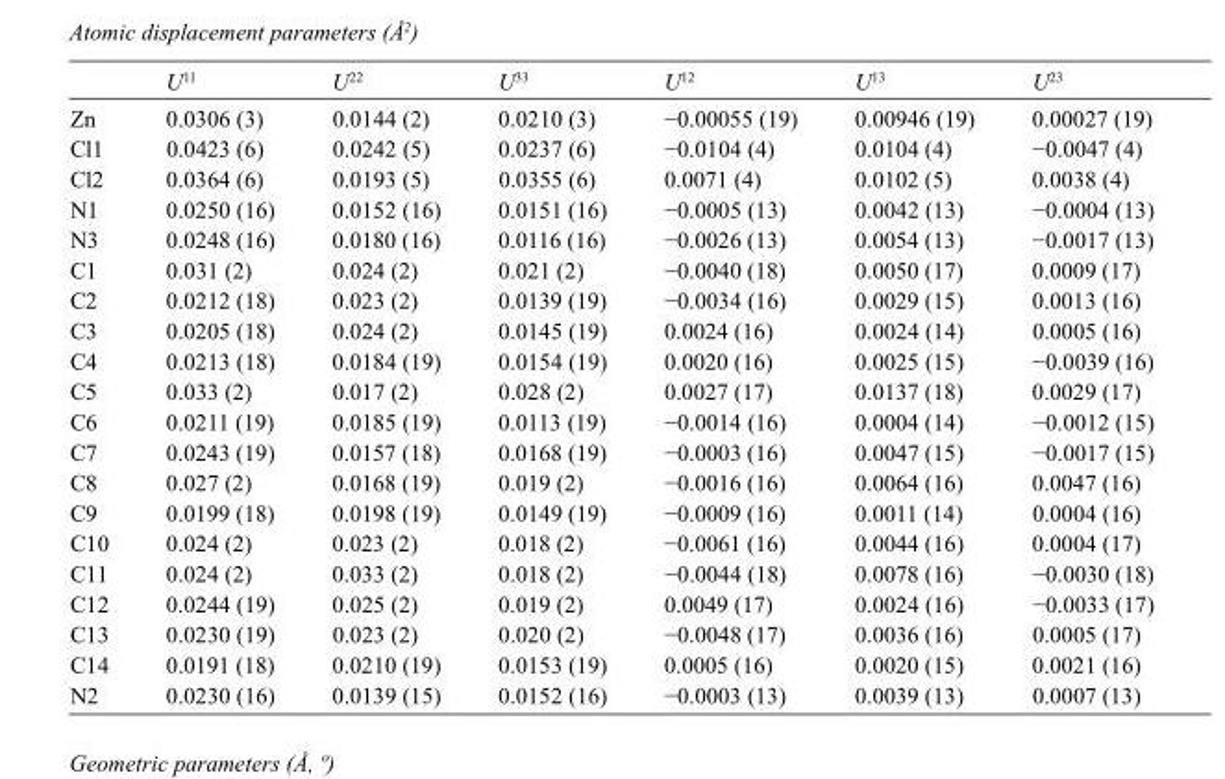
<table><thead><tr><td></td><td>U<sup>11</sup></td><td>U<sup>22</sup></td><td>U<sup>33</sup></td><td>U<sup>12</sup></td><td>U<sup>13</sup></td><td>U<sup>23</sup></td></tr></thead><tbody><tr><td>Zn</td><td>0.0306 (3)</td><td>0.0144 (2)</td><td>0.0210 (3)</td><td>−0.00055 (19)</td><td>0.00946 (19)</td><td>0.00027 (19)</td></tr><tr><td>Cl1</td><td>0.0423 (6)</td><td>0.0242 (5)</td><td>0.0237 (6)</td><td>−0.0104 (4)</td><td>0.0104 (4)</td><td>−0.0047 (4)</td></tr><tr><td>Cl2</td><td>0.0364 (6)</td><td>0.0193 (5)</td><td>0.0355 (6)</td><td>0.0071 (4)</td><td>0.0102 (5)</td><td>0.0038 (4)</td></tr><tr><td>N1</td><td>0.0250 (16)</td><td>0.0152 (16)</td><td>0.0151 (16)</td><td>−0.0005 (13)</td><td>0.0042 (13)</td><td>−0.0004 (13)</td></tr><tr><td>N3</td><td>0.0248 (16)</td><td>0.0180 (16)</td><td>0.0116 (16)</td><td>−0.0026 (13)</td><td>0.0054 (13)</td><td>−0.0017 (13)</td></tr><tr><td>C1</td><td>0.031 (2)</td><td>0.024 (2)</td><td>0.021 (2)</td><td>−0.0040 (18)</td><td>0.0050 (17)</td><td>0.0009 (17)</td></tr><tr><td>C2</td><td>0.0212 (18)</td><td>0.023 (2)</td><td>0.0139 (19)</td><td>−0.0034 (16)</td><td>0.0029 (15)</td><td>0.0013 (16)</td></tr><tr><td>C3</td><td>0.0205 (18)</td><td>0.024 (2)</td><td>0.0145 (19)</td><td>0.0024 (16)</td><td>0.0024 (14)</td><td>0.0005 (16)</td></tr><tr><td>C4</td><td>0.0213 (18)</td><td>0.0184 (19)</td><td>0.0154 (19)</td><td>0.0020 (16)</td><td>0.0025 (15)</td><td>−0.0039 (16)</td></tr><tr><td>C5</td><td>0.033 (2)</td><td>0.017 (2)</td><td>0.028 (2)</td><td>0.0027 (17)</td><td>0.0137 (18)</td><td>0.0029 (17)</td></tr><tr><td>C6</td><td>0.0211 (19)</td><td>0.0185 (19)</td><td>0.0113 (19)</td><td>−0.0014 (16)</td><td>0.0004 (14)</td><td>−0.0012 (15)</td></tr><tr><td>C7</td><td>0.0243 (19)</td><td>0.0157 (18)</td><td>0.0168 (19)</td><td>−0.0003 (16)</td><td>0.0047 (15)</td><td>−0.0017 (15)</td></tr><tr><td>C8</td><td>0.027 (2)</td><td>0.0168 (19)</td><td>0.019 (2)</td><td>−0.0016 (16)</td><td>0.0064 (16)</td><td>0.0047 (16)</td></tr><tr><td>C9</td><td>0.0199 (18)</td><td>0.0198 (19)</td><td>0.0149 (19)</td><td>−0.0009 (16)</td><td>0.0011 (14)</td><td>0.0004 (16)</td></tr><tr><td>C10</td><td>0.024 (2)</td><td>0.023 (2)</td><td>0.018 (2)</td><td>−0.0061 (16)</td><td>0.0044 (16)</td><td>0.0004 (17)</td></tr><tr><td>C11</td><td>0.024 (2)</td><td>0.033 (2)</td><td>0.018 (2)</td><td>−0.0044 (18)</td><td>0.0078 (16)</td><td>−0.0030 (18)</td></tr><tr><td>C12</td><td>0.0244 (19)</td><td>0.025 (2)</td><td>0.019 (2)</td><td>0.0049 (17)</td><td>0.0024 (16)</td><td>−0.0033 (17)</td></tr><tr><td>C13</td><td>0.0230 (19)</td><td>0.023 (2)</td><td>0.020 (2)</td><td>−0.0048 (17)</td><td>0.0036 (16)</td><td>0.0005 (17)</td></tr><tr><td>C14</td><td>0.0191 (18)</td><td>0.0210 (19)</td><td>0.0153 (19)</td><td>0.0005 (16)</td><td>0.0020 (15)</td><td>0.0021 (16)</td></tr><tr><td>N2</td><td>0.0230 (16)</td><td>0.0139 (15)</td><td>0.0152 (16)</td><td>−0.0003 (13)</td><td>0.0039 (13)</td><td>0.0007 (13)</td></tr></tbody></table>